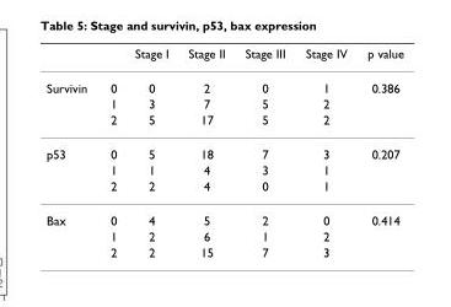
<table><thead><tr><td></td><td></td><td>Stage I</td><td>Stage II</td><td>Stage III</td><td>Stage IV</td><td>p value</td></tr></thead><tbody><tr><td rowspan="3">Survivin</td><td>0</td><td>0</td><td>2</td><td>0</td><td>1</td><td>0.386</td></tr><tr><td>1</td><td>3</td><td>7</td><td>5</td><td>2</td><td></td></tr><tr><td>2</td><td>5</td><td>17</td><td>5</td><td>2</td><td></td></tr><tr><td rowspan="3">p53</td><td>0</td><td>5</td><td>18</td><td>7</td><td>3</td><td>0.207</td></tr><tr><td>1</td><td>1</td><td>4</td><td>3</td><td>1</td><td></td></tr><tr><td>2</td><td>2</td><td>4</td><td>0</td><td>1</td><td></td></tr><tr><td rowspan="3">Bax</td><td>0</td><td>4</td><td>5</td><td>2</td><td>0</td><td>0.414</td></tr><tr><td>1</td><td>2</td><td>6</td><td>1</td><td>2</td><td></td></tr><tr><td>2</td><td>2</td><td>15</td><td>7</td><td>3</td><td></td></tr></tbody></table>